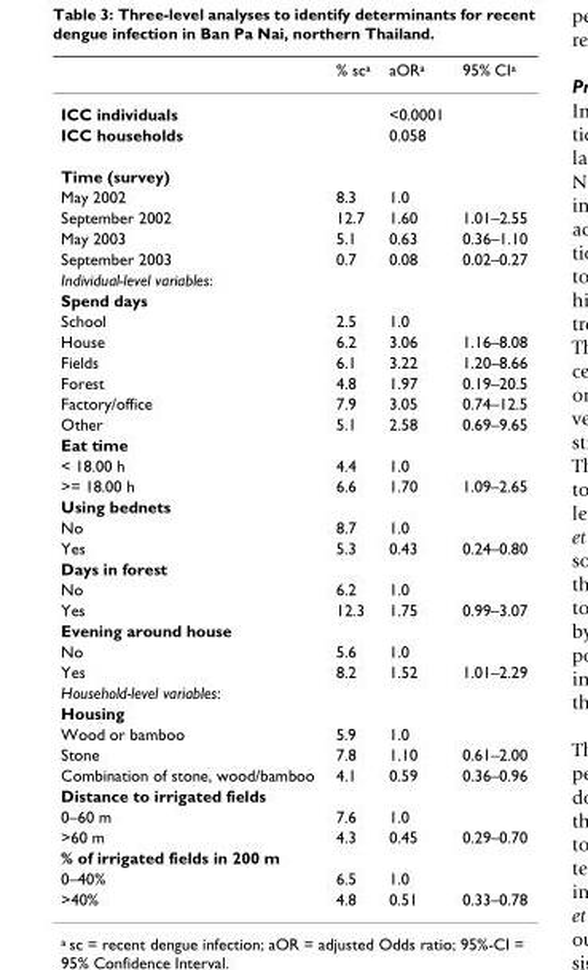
<table><thead><tr><td></td><td>% sc<sup>a</sup></td><td>aOR<sup>a</sup></td><td>95% CI<sup>a</sup></td></tr></thead><tbody><tr><td>ICC individuals</td><td></td><td>&lt;0.0001</td><td></td></tr><tr><td>ICC households</td><td></td><td>0.058</td><td></td></tr><tr><td colspan="4">Time (survey)</td></tr><tr><td>May 2002</td><td>8.3</td><td>1.0</td><td></td></tr><tr><td>September 2002</td><td>12.7</td><td>1.60</td><td>1.01–2.55</td></tr><tr><td>May 2003</td><td>5.1</td><td>0.63</td><td>0.36–1.10</td></tr><tr><td>September 2003</td><td>0.7</td><td>0.08</td><td>0.02–0.27</td></tr><tr><td colspan="4">Individual-level variables:</td></tr><tr><td colspan="4">Spend days</td></tr><tr><td>School</td><td>2.5</td><td>1.0</td><td></td></tr><tr><td>House</td><td>6.2</td><td>3.06</td><td>1.16–8.08</td></tr><tr><td>Fields</td><td>6.1</td><td>3.22</td><td>1.20–8.66</td></tr><tr><td>Forest</td><td>4.8</td><td>1.97</td><td>0.19–20.5</td></tr><tr><td>Factory/office</td><td>7.9</td><td>3.05</td><td>0.74–12.5</td></tr><tr><td>Other</td><td>5.1</td><td>2.58</td><td>0.69–9.65</td></tr><tr><td colspan="4">Eat time</td></tr><tr><td>&lt; 18.00 h</td><td>4.4</td><td>1.0</td><td></td></tr><tr><td>&gt;= 18.00 h</td><td>6.6</td><td>1.70</td><td>1.09–2.65</td></tr><tr><td colspan="4">Using bednets</td></tr><tr><td>No</td><td>8.7</td><td>1.0</td><td></td></tr><tr><td>Yes</td><td>5.3</td><td>0.43</td><td>0.24–0.80</td></tr><tr><td colspan="4">Days in forest</td></tr><tr><td>No</td><td>6.2</td><td>1.0</td><td></td></tr><tr><td>Yes</td><td>12.3</td><td>1.75</td><td>0.99–3.07</td></tr><tr><td colspan="4">Evening around house</td></tr><tr><td>No</td><td>5.6</td><td>1.0</td><td></td></tr><tr><td>Yes</td><td>8.2</td><td>1.52</td><td>1.01–2.29</td></tr><tr><td colspan="4">Household-level variables:</td></tr><tr><td colspan="4">Housing</td></tr><tr><td>Wood or bamboo</td><td>5.9</td><td>1.0</td><td></td></tr><tr><td>Stone</td><td>7.8</td><td>1.10</td><td>0.61–2.00</td></tr><tr><td>Combination of stone, wood/bamboo</td><td>4.1</td><td>0.59</td><td>0.36–0.96</td></tr><tr><td colspan="4">Distance to irrigated fields</td></tr><tr><td>0–60 m</td><td>7.6</td><td>1.0</td><td></td></tr><tr><td>&gt;60 m</td><td>4.3</td><td>0.45</td><td>0.29–0.70</td></tr><tr><td colspan="4">% of irrigated fields in 200 m</td></tr><tr><td>0–40%</td><td>6.5</td><td>1.0</td><td></td></tr><tr><td>&gt;40%</td><td>4.8</td><td>0.51</td><td>0.33–0.78</td></tr></tbody></table>